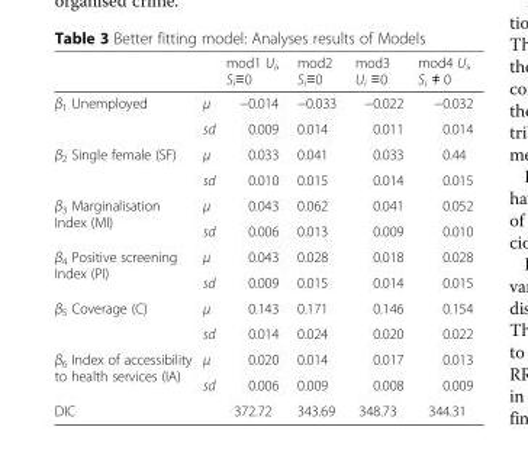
<table><thead><tr><td></td><td></td><td>mod1 U<sub>i</sub>, S<sub>i</sub>≡0</td><td>mod2 S<sub>i</sub>≡0</td><td>mod3 U<sub>i</sub> ≡0</td><td>mod4 U<sub>i</sub>, S<sub>i</sub> ≠ 0</td></tr></thead><tbody><tr><td rowspan="2">β<sub>1</sub> Unemployed</td><td>μ</td><td>−0.014</td><td>−0.033</td><td>−0.022</td><td>−0.032</td></tr><tr><td>sd</td><td>0.009</td><td>0.014</td><td>0.011</td><td>0.014</td></tr><tr><td rowspan="2">β<sub>2</sub> Single female (SF)</td><td>μ</td><td>0.033</td><td>0.041</td><td>0.033</td><td>0.44</td></tr><tr><td>sd</td><td>0.010</td><td>0.015</td><td>0.014</td><td>0.015</td></tr><tr><td rowspan="2">β<sub>3</sub> Marginalisation Index (MI)</td><td>μ</td><td>0.043</td><td>0.062</td><td>0.041</td><td>0.052</td></tr><tr><td>sd</td><td>0.006</td><td>0.013</td><td>0.009</td><td>0.010</td></tr><tr><td rowspan="2">β<sub>4</sub> Positive screening Index (PI)</td><td>μ</td><td>0.043</td><td>0.028</td><td>0.018</td><td>0.028</td></tr><tr><td>sd</td><td>0.009</td><td>0.015</td><td>0.014</td><td>0.015</td></tr><tr><td rowspan="2">β<sub>5</sub> Coverage (C)</td><td>μ</td><td>0.143</td><td>0.171</td><td>0.146</td><td>0.154</td></tr><tr><td>sd</td><td>0.014</td><td>0.024</td><td>0.020</td><td>0.022</td></tr><tr><td rowspan="2">β<sub>6</sub> Index of accessibility to health services (IA)</td><td>μ</td><td>0.020</td><td>0.014</td><td>0.017</td><td>0.013</td></tr><tr><td>sd</td><td>0.006</td><td>0.009</td><td>0.008</td><td>0.009</td></tr><tr><td>DIC</td><td></td><td>372.72</td><td>343.69</td><td>348.73</td><td>344.31</td></tr></tbody></table>